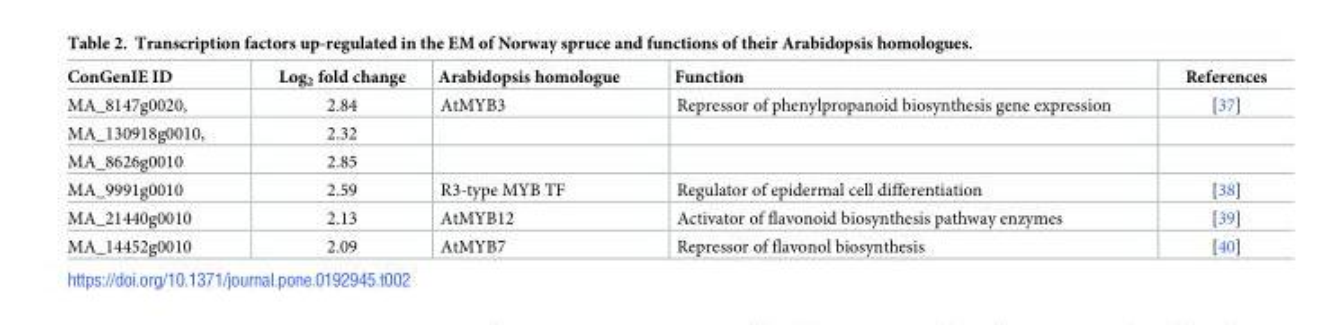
<table><thead><tr><td>ConGenIE ID</td><td>Log<sub>2</sub> fold change</td><td>Arabidopsis homologue</td><td>Function</td><td>References</td></tr></thead><tbody><tr><td>MA_8147g0020,</td><td>2.84</td><td>AtMYB3</td><td>Repressor of phenylpropanoid biosynthesis gene expression</td><td>[37]</td></tr><tr><td>MA_130918g0010,</td><td>2.32</td><td></td><td></td><td></td></tr><tr><td>MA_8626g0010</td><td>2.85</td><td></td><td></td><td></td></tr><tr><td>MA_9991g0010</td><td>2.59</td><td>R3-type MYB TF</td><td>Regulator of epidermal cell differentiation</td><td>[38]</td></tr><tr><td>MA_21440g0010</td><td>2.13</td><td>AtMYB12</td><td>Activator of flavonoid biosynthesis pathway enzymes</td><td>[39]</td></tr><tr><td>MA_14452g0010</td><td>2.09</td><td>AtMYB7</td><td>Repressor of flavonol biosynthesis</td><td>[40]</td></tr></tbody></table>